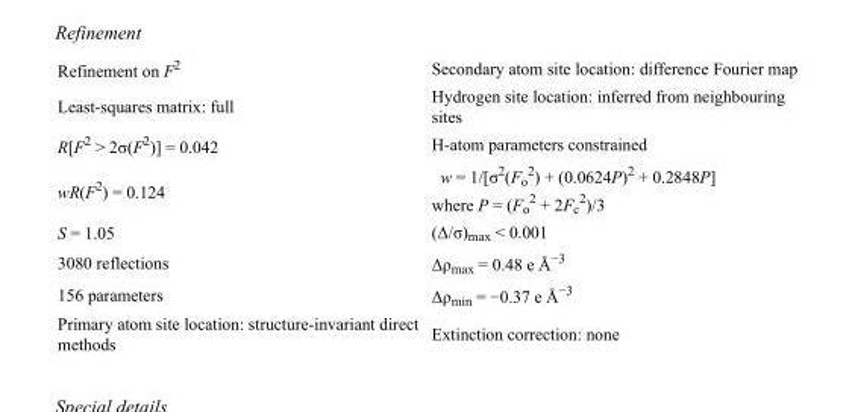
<table><tbody><tr><td>Refinement on F<sup>2</sup></td><td>Secondary atom site location: difference Fourier map</td></tr><tr><td>Least-squares matrix: full</td><td>Hydrogen site location: inferred from neighbouring sites</td></tr><tr><td>R[F<sup>2</sup> &gt; 2σ(F<sup>2</sup>)] = 0.042</td><td>H-atom parameters constrained</td></tr><tr><td>wR(F<sup>2</sup>) = 0.124</td><td>w = 1/[σ<sup>2</sup>(F<sub>o</sub> <sup>2</sup>) + (0.0624P)<sup>2</sup> + 0.2848P] where P = (F<sub>o</sub> <sup>2</sup> + 2F<sub>c</sub> <sup>2</sup>)/3</td></tr><tr><td>S = 1.05</td><td>(Δ/σ)<sub>max</sub> &lt; 0.001</td></tr><tr><td>3080 reflections</td><td>Δρ<sub>max</sub> = 0.48 e Å<sup>−3</sup></td></tr><tr><td>156 parameters</td><td>Δρ<sub>min</sub> = −0.37 e Å<sup>−3</sup></td></tr><tr><td>Primary atom site location: structure-invariant direct methods</td><td>Extinction correction: none</td></tr></tbody></table>